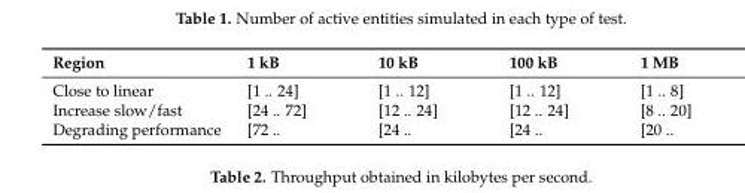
<table><thead><tr><td>Region</td><td>1 kB</td><td>10 kB</td><td>100 kB</td><td>1 MB</td></tr></thead><tbody><tr><td>Close to linear</td><td>[1 .. 24]</td><td>[1 .. 12]</td><td>[1 .. 12]</td><td>[1 .. 8]</td></tr><tr><td>Increase slow/fast</td><td>[24 .. 72]</td><td>[12 .. 24]</td><td>[12 .. 24]</td><td>[8 .. 20]</td></tr><tr><td>Degrading performance</td><td>[72 ..</td><td>[24 ..</td><td>[24 ..</td><td>[20 ..</td></tr></tbody></table>